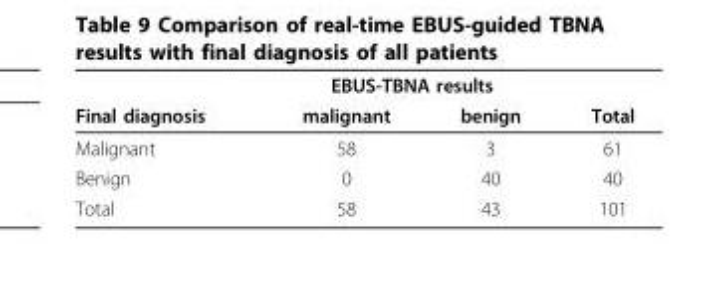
<table><thead><tr><td rowspan="2">Final diagnosis</td><td colspan="2">EBUS-TBNA results</td><td rowspan="2">Total</td></tr><tr><td>malignant</td><td>benign</td></tr></thead><tbody><tr><td>Malignant</td><td>58</td><td>3</td><td>61</td></tr><tr><td>Benign</td><td>0</td><td>40</td><td>40</td></tr><tr><td>Total</td><td>58</td><td>43</td><td>101</td></tr></tbody></table>